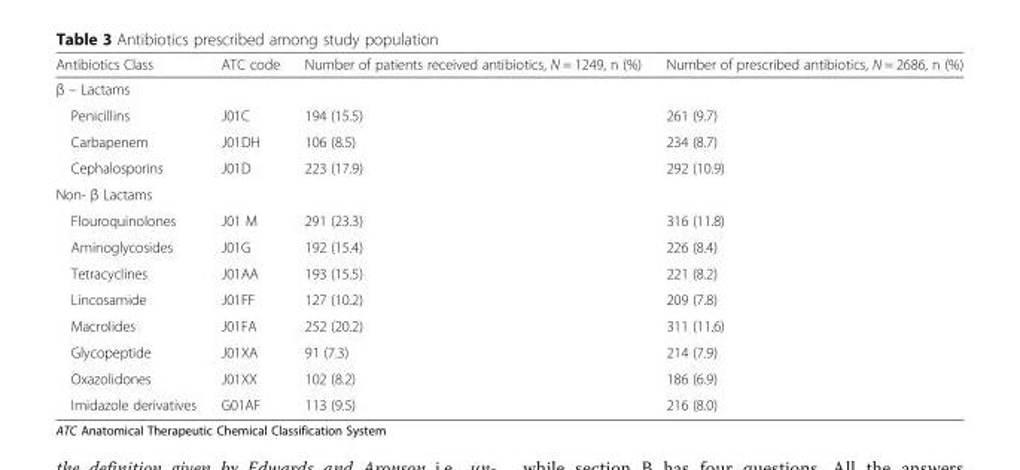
<table><thead><tr><td>Antibiotics Class</td><td>ATC code</td><td>Number of patients received antibiotics, N = 1249, n (%)</td><td>Number of prescribed antibiotics, N = 2686, n (%)</td></tr></thead><tbody><tr><td colspan="4">β – Lactams</td></tr><tr><td>Penicillins</td><td>J01C</td><td>194 (15.5)</td><td>261 (9.7)</td></tr><tr><td>Carbapenem</td><td>J01DH</td><td>106 (8.5)</td><td>234 (8.7)</td></tr><tr><td>Cephalosporins</td><td>J01D</td><td>223 (17.9)</td><td>292 (10.9)</td></tr><tr><td colspan="4">Non- β Lactams</td></tr><tr><td>Flouroquinolones</td><td>J01 M</td><td>291 (23.3)</td><td>316 (11.8)</td></tr><tr><td>Aminoglycosides</td><td>J01G</td><td>192 (15.4)</td><td>226 (8.4)</td></tr><tr><td>Tetracyclines</td><td>J01AA</td><td>193 (15.5)</td><td>221 (8.2)</td></tr><tr><td>Lincosamide</td><td>J01FF</td><td>127 (10.2)</td><td>209 (7.8)</td></tr><tr><td>Macrolides</td><td>J01FA</td><td>252 (20.2)</td><td>311 (11.6)</td></tr><tr><td>Glycopeptide</td><td>J01XA</td><td>91 (7.3)</td><td>214 (7.9)</td></tr><tr><td>Oxazolidones</td><td>J01XX</td><td>102 (8.2)</td><td>186 (6.9)</td></tr><tr><td>Imidazole derivatives</td><td>G01AF</td><td>113 (9.5)</td><td>216 (8.0)</td></tr></tbody></table>